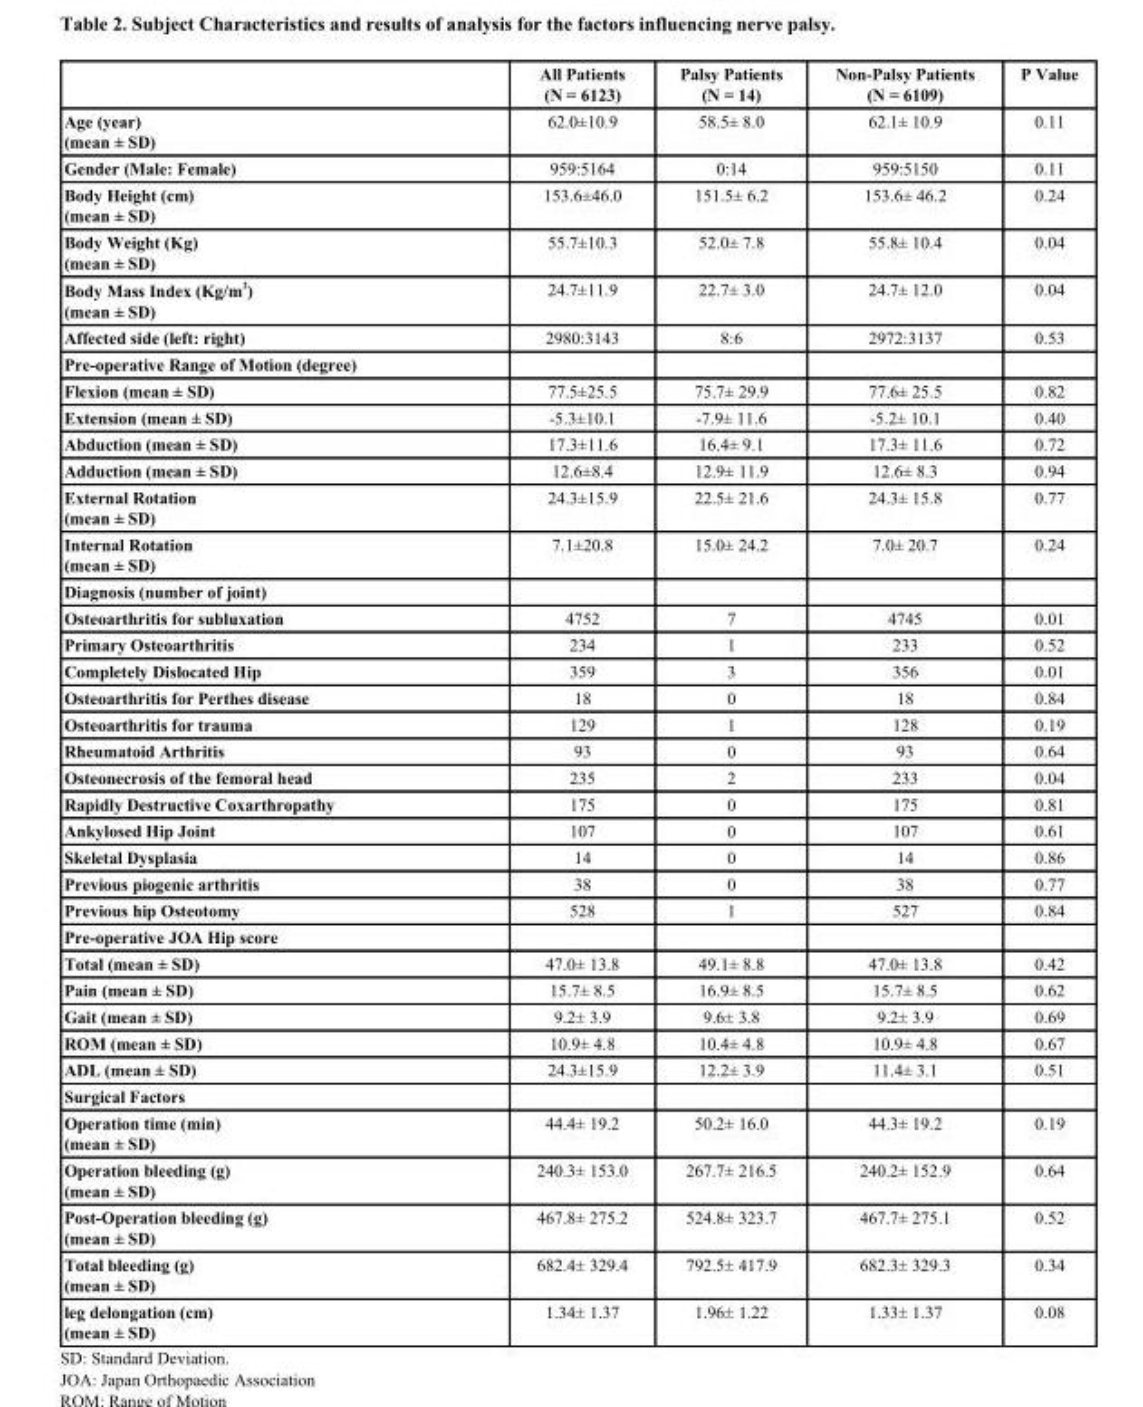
<table><thead><tr><td></td><td>All Patients (N = 6123)</td><td>Palsy Patients (N = 14)</td><td>Non-Palsy Patients (N = 6109)</td><td>P Value</td></tr></thead><tbody><tr><td>Age (year) (mean ± SD)</td><td>62.0±10.9</td><td>58.5± 8.0</td><td>62.1± 10.9</td><td>0.11</td></tr><tr><td>Gender (Male: Female)</td><td>959:5164</td><td>0:14</td><td>959:5150</td><td>0.11</td></tr><tr><td>Body Height (cm) (mean ± SD)</td><td>153.6±46.0</td><td>151.5± 6.2</td><td>153.6± 46.2</td><td>0.24</td></tr><tr><td>Body Weight (Kg) (mean ± SD)</td><td>55.7±10.3</td><td>52.0± 7.8</td><td>55.8± 10.4</td><td>0.04</td></tr><tr><td>Body Mass Index (Kg/m <sup>2</sup>) (mean ± SD)</td><td>24.7±11.9</td><td>22.7± 3.0</td><td>24.7± 12.0</td><td>0.04</td></tr><tr><td>Affected side (left: right)</td><td>2980:3143</td><td>8:6</td><td>2972:3137</td><td>0.53</td></tr><tr><td colspan="5">Pre-operative Range of Motion (degree)</td></tr><tr><td>Flexion (mean ± SD)</td><td>77.5±25.5</td><td>75.7± 29.9</td><td>77.6± 25.5</td><td>0.82</td></tr><tr><td>Extension (mean ± SD)</td><td>-5.3±10.1</td><td>-7.9± 11.6</td><td>-5.2± 10.1</td><td>0.40</td></tr><tr><td>Abduction (mean ± SD)</td><td>17.3±11.6</td><td>16.4± 9.1</td><td>17.3± 11.6</td><td>0.72</td></tr><tr><td>Adduction (mean ± SD)</td><td>12.6±8.4</td><td>12.9± 11.9</td><td>12.6± 8.3</td><td>0.94</td></tr><tr><td>External Rotation (mean ± SD)</td><td>24.3±15.9</td><td>22.5± 21.6</td><td>24.3± 15.8</td><td>0.77</td></tr><tr><td>Internal Rotation (mean ± SD)</td><td>7.1±20.8</td><td>15.0± 24.2</td><td>7.0± 20.7</td><td>0.24</td></tr><tr><td colspan="5">Diagnosis (number of joint)</td></tr><tr><td>Osteoarthritis for subluxation</td><td>4752</td><td>7</td><td>4745</td><td>0.01</td></tr><tr><td>Primary Osteoarthritis</td><td>234</td><td>1</td><td>233</td><td>0.52</td></tr><tr><td>Completely Dislocated Hip</td><td>359</td><td>3</td><td>356</td><td>0.01</td></tr><tr><td>Osteoarthritis for Perthes disease</td><td>18</td><td>0</td><td>18</td><td>0.84</td></tr><tr><td>Osteoarthritis for trauma</td><td>129</td><td>1</td><td>128</td><td>0.19</td></tr><tr><td>Rheumatoid Arthritis</td><td>93</td><td>0</td><td>93</td><td>0.64</td></tr><tr><td>Osteonecrosis of the femoral head</td><td>235</td><td>2</td><td>233</td><td>0.04</td></tr><tr><td>Rapidly Destructive Coxarthropathy</td><td>175</td><td>0</td><td>175</td><td>0.81</td></tr><tr><td>Ankylosed Hip Joint</td><td>107</td><td>0</td><td>107</td><td>0.61</td></tr><tr><td>Skeletal Dysplasia</td><td>14</td><td>0</td><td>14</td><td>0.86</td></tr><tr><td>Previous piogenic arthritis</td><td>38</td><td>0</td><td>38</td><td>0.77</td></tr><tr><td>Previous hip Osteotomy</td><td>528</td><td>1</td><td>527</td><td>0.84</td></tr><tr><td colspan="5">Pre-operative JOA Hip score</td></tr><tr><td>Total (mean ± SD)</td><td>47.0± 13.8</td><td>49.1± 8.8</td><td>47.0± 13.8</td><td>0.42</td></tr><tr><td>Pain (mean ± SD)</td><td>15.7± 8.5</td><td>16.9± 8.5</td><td>15.7± 8.5</td><td>0.62</td></tr><tr><td>Gait (mean ± SD)</td><td>9.2± 3.9</td><td>9.6± 3.8</td><td>9.2± 3.9</td><td>0.69</td></tr><tr><td>ROM (mean ± SD)</td><td>10.9± 4.8</td><td>10.4± 4.8</td><td>10.9± 4.8</td><td>0.67</td></tr><tr><td>ADL (mean ± SD)</td><td>24.3±15.9</td><td>12.2± 3.9</td><td>11.4± 3.1</td><td>0.51</td></tr><tr><td colspan="5">Surgical Factors</td></tr><tr><td>Operation time (min) (mean ± SD)</td><td>44.4± 19.2</td><td>50.2± 16.0</td><td>44.3± 19.2</td><td>0.19</td></tr><tr><td>Operation bleeding (g) (mean ± SD)</td><td>240.3± 153.0</td><td>267.7± 216.5</td><td>240.2± 152.9</td><td>0.64</td></tr><tr><td>Post-Operation bleeding (g) (mean ± SD)</td><td>467.8± 275.2</td><td>524.8± 323.7</td><td>467.7± 275.1</td><td>0.52</td></tr><tr><td>Total bleeding (g) (mean ± SD)</td><td>682.4± 329.4</td><td>792.5± 417.9</td><td>682.3± 329.3</td><td>0.34</td></tr><tr><td>leg delongation (cm) (mean ± SD)</td><td>1.34± 1.37</td><td>1.96± 1.22</td><td>1.33± 1.37</td><td>0.08</td></tr></tbody></table>